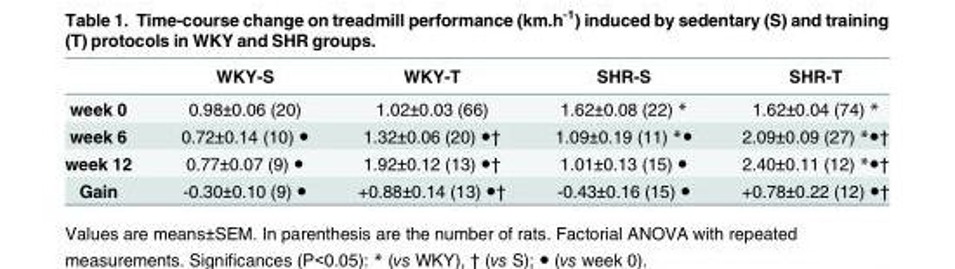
<table><thead><tr><td></td><td>WKY-S</td><td>WKY-T</td><td>SHR-S</td><td>SHR-T</td></tr></thead><tbody><tr><td>week 0</td><td>0.98±0.06 (20)</td><td>1.02±0.03 (66)</td><td>1.62±0.08 (22) *</td><td>1.62±0.04 (74) *</td></tr><tr><td>week 6</td><td>0.72±0.14 (10) ●</td><td>1.32±0.06 (20) ●†</td><td>1.09±0.19 (11) *●</td><td>2.09±0.09 (27) *●†</td></tr><tr><td>week 12</td><td>0.77±0.07 (9) ●</td><td>1.92±0.12 (13) ●†</td><td>1.01±0.13 (15) ●</td><td>2.40±0.11 (12) *●†</td></tr><tr><td>Gain</td><td>-0.30±0.10 (9) ●</td><td>+0.88±0.14 (13) ●†</td><td>-0.43±0.16 (15) ●</td><td>+0.78±0.22 (12) ●†</td></tr></tbody></table>